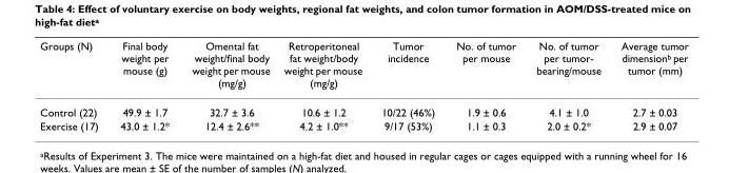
<table><thead><tr><td>Groups (N)</td><td>Final body weight per mouse (g)</td><td>Omental fat weight/final body weight per mouse (mg/g)</td><td>Retroperitoneal fat weight/body weight per mouse (mg/g)</td><td>Tumor incidence</td><td>No. of tumor per mouse</td><td>No. of tumor per tumor- bearing/mouse</td><td>Average tumor dimension<sup>b</sup> per tumor (mm)</td></tr></thead><tbody><tr><td>Control (22)</td><td>49.9 ± 1.7</td><td>32.7 ± 3.6</td><td>10.6 ± 1.2</td><td>10/22 (46%)</td><td>1.9 ± 0.6</td><td>4.1 ± 1.0</td><td>2.7 ± 0.03</td></tr><tr><td>Exercise (17)</td><td>43.0 ± 1.2*</td><td>12.4 ± 2.6**</td><td>4.2 ± 1.0**</td><td>9/17 (53%)</td><td>1.1 ± 0.3</td><td>2.0 ± 0.2*</td><td>2.9 ± 0.07</td></tr></tbody></table>